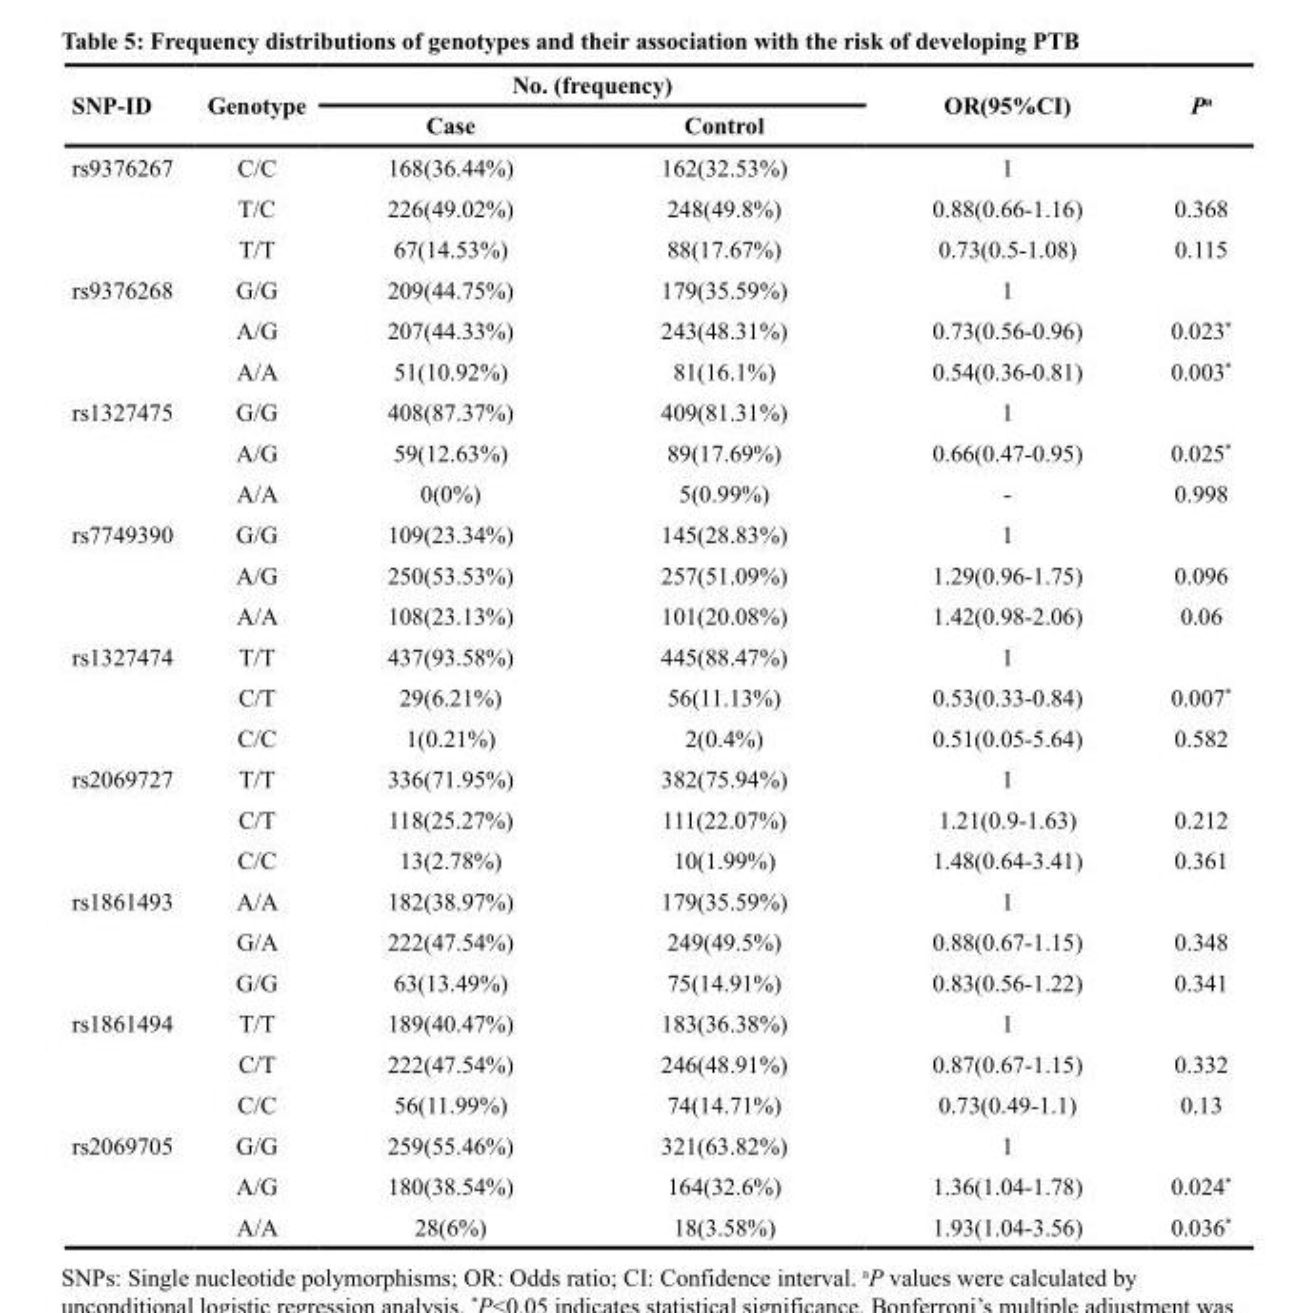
<table><thead><tr><td rowspan="2">SNP-ID</td><td rowspan="2">Genotype</td><td colspan="2">No. (frequency)</td><td rowspan="2">OR(95%CI)</td><td rowspan="2">P<sup>a</sup></td></tr><tr><td>Case</td><td>Control</td></tr></thead><tbody><tr><td rowspan="3">rs9376267</td><td>C/C</td><td>168(36.44%)</td><td>162(32.53%)</td><td>1</td><td></td></tr><tr><td>T/C</td><td>226(49.02%)</td><td>248(49.8%)</td><td>0.88(0.66-1.16)</td><td>0.368</td></tr><tr><td>T/T</td><td>67(14.53%)</td><td>88(17.67%)</td><td>0.73(0.5-1.08)</td><td>0.115</td></tr><tr><td rowspan="3">rs9376268</td><td>G/G</td><td>209(44.75%)</td><td>179(35.59%)</td><td>1</td><td></td></tr><tr><td>A/G</td><td>207(44.33%)</td><td>243(48.31%)</td><td>0.73(0.56-0.96)</td><td>0.023*</td></tr><tr><td>A/A</td><td>51(10.92%)</td><td>81(16.1%)</td><td>0.54(0.36-0.81)</td><td>0.003*</td></tr><tr><td rowspan="3">rs1327475</td><td>G/G</td><td>408(87.37%)</td><td>409(81.31%)</td><td>1</td><td></td></tr><tr><td>A/G</td><td>59(12.63%)</td><td>89(17.69%)</td><td>0.66(0.47-0.95)</td><td>0.025*</td></tr><tr><td>A/A</td><td>0(0%)</td><td>5(0.99%)</td><td>-</td><td>0.998</td></tr><tr><td rowspan="3">rs7749390</td><td>G/G</td><td>109(23.34%)</td><td>145(28.83%)</td><td>1</td><td></td></tr><tr><td>A/G</td><td>250(53.53%)</td><td>257(51.09%)</td><td>1.29(0.96-1.75)</td><td>0.096</td></tr><tr><td>A/A</td><td>108(23.13%)</td><td>101(20.08%)</td><td>1.42(0.98-2.06)</td><td>0.06</td></tr><tr><td rowspan="3">rs1327474</td><td>T/T</td><td>437(93.58%)</td><td>445(88.47%)</td><td>1</td><td></td></tr><tr><td>C/T</td><td>29(6.21%)</td><td>56(11.13%)</td><td>0.53(0.33-0.84)</td><td>0.007*</td></tr><tr><td>C/C</td><td>1(0.21%)</td><td>2(0.4%)</td><td>0.51(0.05-5.64)</td><td>0.582</td></tr><tr><td rowspan="3">rs2069727</td><td>T/T</td><td>336(71.95%)</td><td>382(75.94%)</td><td>1</td><td></td></tr><tr><td>C/T</td><td>118(25.27%)</td><td>111(22.07%)</td><td>1.21(0.9-1.63)</td><td>0.212</td></tr><tr><td>C/C</td><td>13(2.78%)</td><td>10(1.99%)</td><td>1.48(0.64-3.41)</td><td>0.361</td></tr><tr><td rowspan="3">rs1861493</td><td>A/A</td><td>182(38.97%)</td><td>179(35.59%)</td><td>1</td><td></td></tr><tr><td>G/A</td><td>222(47.54%)</td><td>249(49.5%)</td><td>0.88(0.67-1.15)</td><td>0.348</td></tr><tr><td>G/G</td><td>63(13.49%)</td><td>75(14.91%)</td><td>0.83(0.56-1.22)</td><td>0.341</td></tr><tr><td rowspan="3">rs1861494</td><td>T/T</td><td>189(40.47%)</td><td>183(36.38%)</td><td>1</td><td></td></tr><tr><td>C/T</td><td>222(47.54%)</td><td>246(48.91%)</td><td>0.87(0.67-1.15)</td><td>0.332</td></tr><tr><td>C/C</td><td>56(11.99%)</td><td>74(14.71%)</td><td>0.73(0.49-1.1)</td><td>0.13</td></tr><tr><td rowspan="3">rs2069705</td><td>G/G</td><td>259(55.46%)</td><td>321(63.82%)</td><td>1</td><td></td></tr><tr><td>A/G</td><td>180(38.54%)</td><td>164(32.6%)</td><td>1.36(1.04-1.78)</td><td>0.024*</td></tr><tr><td>A/A</td><td>28(6%)</td><td>18(3.58%)</td><td>1.93(1.04-3.56)</td><td>0.036*</td></tr></tbody></table>